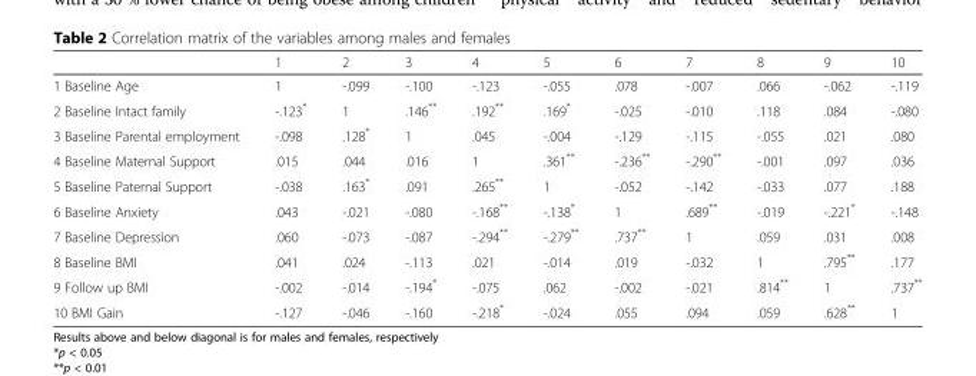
<table><thead><tr><td></td><td>1</td><td>2</td><td>3</td><td>4</td><td>5</td><td>6</td><td>7</td><td>8</td><td>9</td><td>10</td></tr></thead><tbody><tr><td>1 Baseline Age</td><td>1</td><td>-.099</td><td>-.100</td><td>-.123</td><td>-.055</td><td>.078</td><td>-.007</td><td>.066</td><td>-.062</td><td>-.119</td></tr><tr><td>2 Baseline Intact family</td><td>-.123*</td><td>1</td><td>.146**</td><td>.192**</td><td>.169*</td><td>-.025</td><td>-.010</td><td>.118</td><td>.084</td><td>-.080</td></tr><tr><td>3 Baseline Parental employment</td><td>-.098</td><td>.128*</td><td>1</td><td>.045</td><td>-.004</td><td>-.129</td><td>-.115</td><td>-.055</td><td>.021</td><td>.080</td></tr><tr><td>4 Baseline Maternal Support</td><td>.015</td><td>.044</td><td>.016</td><td>1</td><td>.361**</td><td>-.236**</td><td>-.290**</td><td>-.001</td><td>.097</td><td>.036</td></tr><tr><td>5 Baseline Paternal Support</td><td>-.038</td><td>.163*</td><td>.091</td><td>.265**</td><td>1</td><td>-.052</td><td>-.142</td><td>-.033</td><td>.077</td><td>.188</td></tr><tr><td>6 Baseline Anxiety</td><td>.043</td><td>-.021</td><td>-.080</td><td>-.168**</td><td>-.138*</td><td>1</td><td>.689**</td><td>-.019</td><td>-.221*</td><td>-.148</td></tr><tr><td>7 Baseline Depression</td><td>.060</td><td>-.073</td><td>-.087</td><td>-.294**</td><td>-.279**</td><td>.737**</td><td>1</td><td>.059</td><td>.031</td><td>.008</td></tr><tr><td>8 Baseline BMI</td><td>.041</td><td>.024</td><td>-.113</td><td>.021</td><td>-.014</td><td>.019</td><td>-.032</td><td>1</td><td>.795**</td><td>.177</td></tr><tr><td>9 Follow up BMI</td><td>-.002</td><td>-.014</td><td>-.194*</td><td>-.075</td><td>.062</td><td>-.002</td><td>-.021</td><td>.814**</td><td>1</td><td>.737**</td></tr><tr><td>10 BMI Gain</td><td>-.127</td><td>-.046</td><td>-.160</td><td>-.218*</td><td>-.024</td><td>.055</td><td>.094</td><td>.059</td><td>.628**</td><td>1</td></tr></tbody></table>